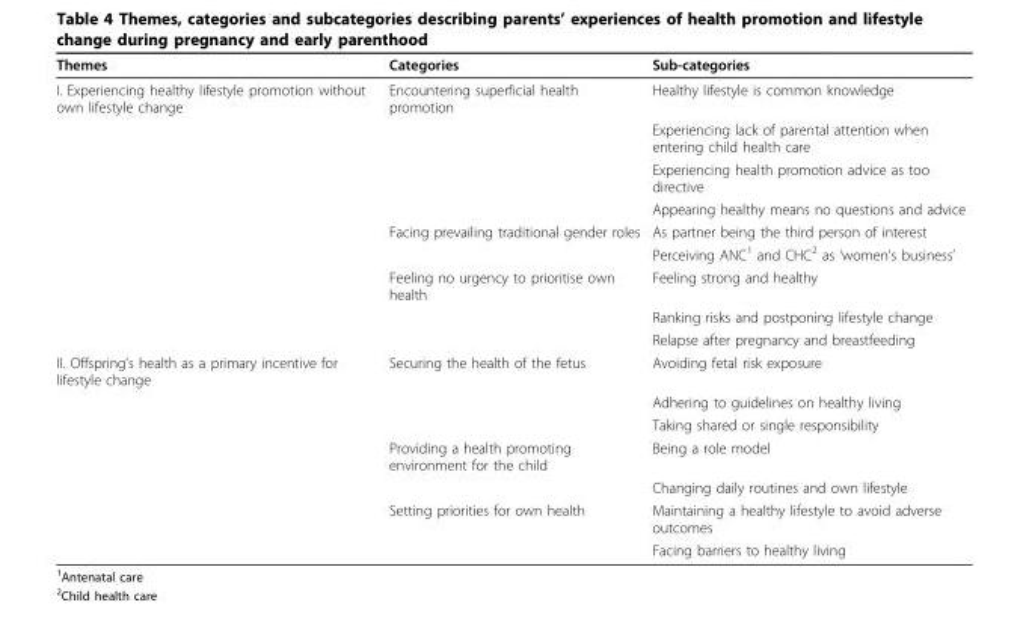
<table><thead><tr><td>Themes</td><td>Categories</td><td>Sub-categories</td></tr></thead><tbody><tr><td rowspan="9">I. Experiencing healthy lifestyle promotion without own lifestyle change</td><td>Encountering superficial health promotion</td><td>Healthy lifestyle is common knowledge</td></tr><tr><td></td><td>Experiencing lack of parental attention when entering child health care</td></tr><tr><td></td><td>Experiencing health promotion advice as too directive</td></tr><tr><td></td><td>Appearing healthy means no questions and advice</td></tr><tr><td>Facing prevailing traditional gender roles</td><td>As partner being the third person of interest</td></tr><tr><td></td><td>Perceiving ANC<sup>1</sup> and CHC<sup>2</sup> as ‘women’s business’</td></tr><tr><td>Feeling no urgency to prioritise own health</td><td>Feeling strong and healthy</td></tr><tr><td></td><td>Ranking risks and postponing lifestyle change</td></tr><tr><td></td><td>Relapse after pregnancy and breastfeeding</td></tr><tr><td rowspan="7">II. Offspring’s health as a primary incentive for lifestyle change</td><td>Securing the health of the fetus</td><td>Avoiding fetal risk exposure</td></tr><tr><td></td><td>Adhering to guidelines on healthy living</td></tr><tr><td></td><td>Taking shared or single responsibility</td></tr><tr><td>Providing a health promoting environment for the child</td><td>Being a role model</td></tr><tr><td></td><td>Changing daily routines and own lifestyle</td></tr><tr><td>Setting priorities for own health</td><td>Maintaining a healthy lifestyle to avoid adverse outcomes</td></tr><tr><td></td><td>Facing barriers to healthy living</td></tr></tbody></table>